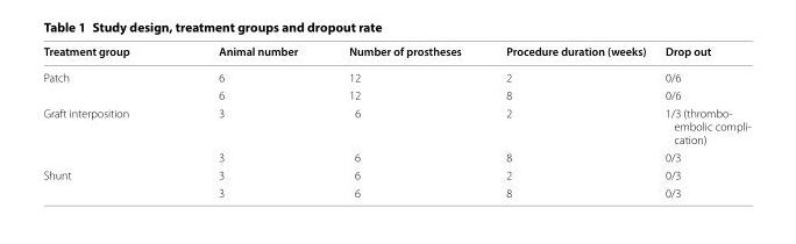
<table><thead><tr><td>Treatment group</td><td>Animal number</td><td>Number of prostheses</td><td>Procedure duration (weeks)</td><td>Drop out</td></tr></thead><tbody><tr><td rowspan="2">Patch</td><td>6</td><td>12</td><td>2</td><td>0/6</td></tr><tr><td>6</td><td>12</td><td>8</td><td>0/6</td></tr><tr><td rowspan="2">Graft interposition</td><td>3</td><td>6</td><td>2</td><td>1/3 (thrombo- embolic compli- cation)</td></tr><tr><td>3</td><td>6</td><td>8</td><td>0/3</td></tr><tr><td rowspan="2">Shunt</td><td>3</td><td>6</td><td>2</td><td>0/3</td></tr><tr><td>3</td><td>6</td><td>8</td><td>0/3</td></tr></tbody></table>